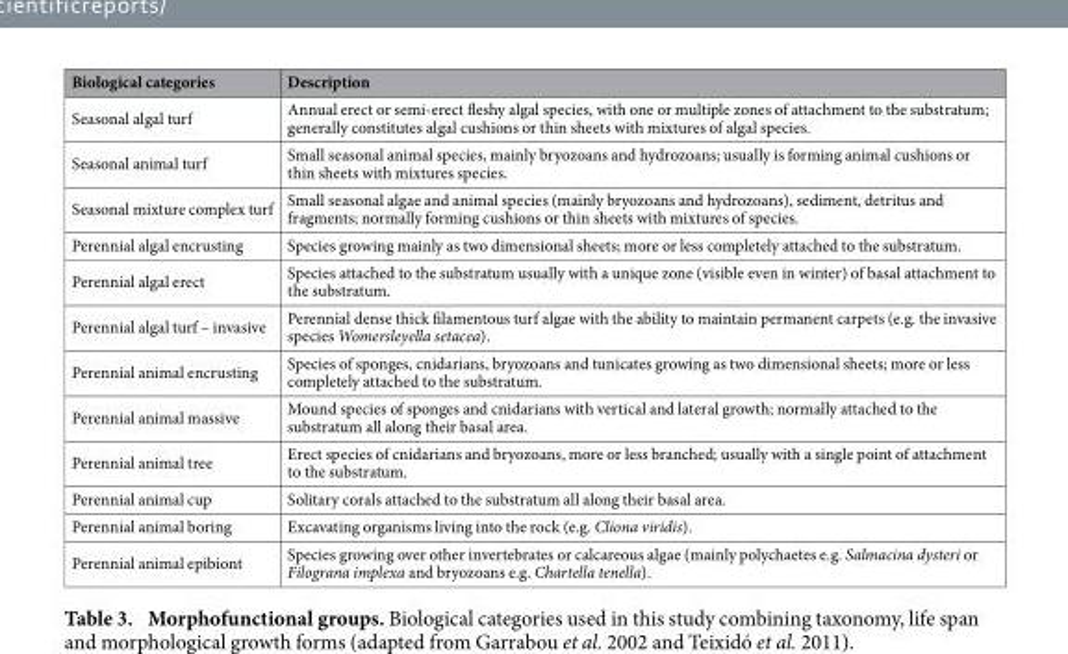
<table><thead><tr><td>Biological categories</td><td>Description</td></tr></thead><tbody><tr><td>Seasonal algal turf</td><td>Annual erect or semi-erect fleshy algal species, with one or multiple zones of attachment to the substratum; generally constitutes algal cushions or thin sheets with mixtures of algal species.</td></tr><tr><td>Seasonal animal turf</td><td>Small seasonal animal species, mainly bryozoans and hydrozoans; usually is forming animal cushions or thin sheets with mixtures species.</td></tr><tr><td>Seasonal mixture complex turf</td><td>Small seasonal algae and animal species (mainly bryozoans and hydrozoans), sediment, detritus and fragments; normally forming cushions or thin sheets with mixtures of species.</td></tr><tr><td>Perennial algal encrusting</td><td>Species growing mainly as two dimensional sheets; more or less completely attached to the substratum.</td></tr><tr><td>Perennial algal erect</td><td>Species attached to the substratum usually with a unique zone (visible even in winter) of basal attachment to the substratum.</td></tr><tr><td>Perennial algal turf – invasive</td><td>Perennial dense thick filamentous turf algae with the ability to maintain permanent carpets (e.g. the invasive species Womersleyella setacea).</td></tr><tr><td>Perennial animal encrusting</td><td>Species of sponges, cnidarians, bryozoans and tunicates growing as two dimensional sheets; more or less completely attached to the substratum.</td></tr><tr><td>Perennial animal massive</td><td>Mound species of sponges and cnidarians with vertical and lateral growth; normally attached to the substratum all along their basal area.</td></tr><tr><td>Perennial animal tree</td><td>Erect species of cnidarians and bryozoans, more or less branched; usually with a single point of attachment to the substratum.</td></tr><tr><td>Perennial animal cup</td><td>Solitary corals attached to the substratum all along their basal area.</td></tr><tr><td>Perennial animal boring</td><td>Excavating organisms living into the rock (e.g. Cliona viridis).</td></tr><tr><td>Perennial animal epibiont</td><td>Species growing over other invertebrates or calcareous algae (mainly polychaetes e.g. Salmacina dysteri or Filograna implexa and bryozoans e.g. Chartella tenella).</td></tr></tbody></table>